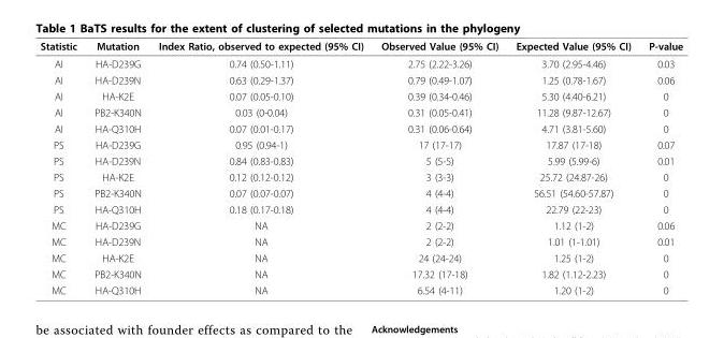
<table><thead><tr><td>Statistic</td><td>Mutation</td><td>Index Ratio, observed to expected (95% CI)</td><td>Observed Value (95% CI)</td><td>Expected Value (95% CI)</td><td>P-value</td></tr></thead><tbody><tr><td>AI</td><td>HA-D239G</td><td>0.74 (0.50-1.11)</td><td>2.75 (2.22-3.26)</td><td>3.70 (2.95-4.46)</td><td>0.03</td></tr><tr><td>AI</td><td>HA-D239N</td><td>0.63 (0.29-1.37)</td><td>0.79 (0.49-1.07)</td><td>1.25 (0.78-1.67)</td><td>0.06</td></tr><tr><td>AI</td><td>HA-K2E</td><td>0.07 (0.05-0.10)</td><td>0.39 (0.34-0.46)</td><td>5.30 (4.40-6.21)</td><td>0</td></tr><tr><td>AI</td><td>PB2-K340N</td><td>0.03 (0-0.04)</td><td>0.31 (0.05-0.41)</td><td>11.28 (9.87-12.67)</td><td>0</td></tr><tr><td>AI</td><td>HA-Q310H</td><td>0.07 (0.01-0.17)</td><td>0.31 (0.06-0.64)</td><td>4.71 (3.81-5.60)</td><td>0</td></tr><tr><td>PS</td><td>HA-D239G</td><td>0.95 (0.94-1)</td><td>17 (17-17)</td><td>17.87 (17-18)</td><td>0.07</td></tr><tr><td>PS</td><td>HA-D239N</td><td>0.84 (0.83-0.83)</td><td>5 (5-5)</td><td>5.99 (5.99-6)</td><td>0.01</td></tr><tr><td>PS</td><td>HA-K2E</td><td>0.12 (0.12-0.12)</td><td>3 (3-3)</td><td>25.72 (24.87-26)</td><td>0</td></tr><tr><td>PS</td><td>PB2-K340N</td><td>0.07 (0.07-0.07)</td><td>4 (4-4)</td><td>56.51 (54.60-57.87)</td><td>0</td></tr><tr><td>PS</td><td>HA-Q310H</td><td>0.18 (0.17-0.18)</td><td>4 (4-4)</td><td>22.79 (22-23)</td><td>0</td></tr><tr><td>MC</td><td>HA-D239G</td><td>NA</td><td>2 (2-2)</td><td>1.12 (1-2)</td><td>0.06</td></tr><tr><td>MC</td><td>HA-D239N</td><td>NA</td><td>2 (2-2)</td><td>1.01 (1-1.01)</td><td>0.01</td></tr><tr><td>MC</td><td>HA-K2E</td><td>NA</td><td>24 (24-24)</td><td>1.25 (1-2)</td><td>0</td></tr><tr><td>MC</td><td>PB2-K340N</td><td>NA</td><td>17.32 (17-18)</td><td>1.82 (1.12-2.23)</td><td>0</td></tr><tr><td>MC</td><td>HA-Q310H</td><td>NA</td><td>6.54 (4-11)</td><td>1.20 (1-2)</td><td>0</td></tr></tbody></table>